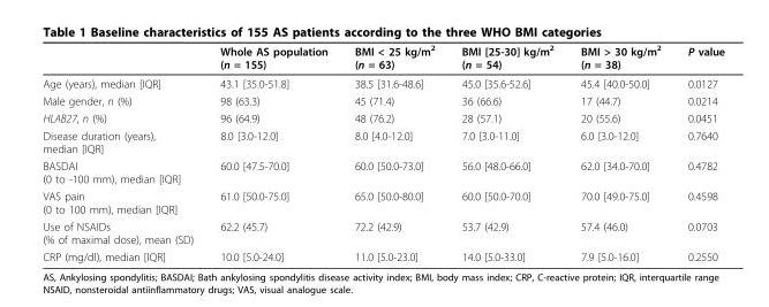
<table><thead><tr><td></td><td>Whole AS population (n = 155)</td><td>BMI &lt; 25 kg/m<sup>2</sup> (n = 63)</td><td>BMI [25-30] kg/m<sup>2</sup> (n = 54)</td><td>BMI &gt; 30 kg/m<sup>2</sup> (n = 38)</td><td>P value</td></tr></thead><tbody><tr><td>Age (years), median [IQR]</td><td>43.1 [35.0-51.8]</td><td>38.5 [31.6-48.6]</td><td>45.0 [35.6-52.6]</td><td>45.4 [40.0-50.0]</td><td>0.0127</td></tr><tr><td>Male gender, n (%)</td><td>98 (63.3)</td><td>45 (71.4)</td><td>36 (66.6)</td><td>17 (44.7)</td><td>0.0214</td></tr><tr><td>HLAB27, n (%)</td><td>96 (64.9)</td><td>48 (76.2)</td><td>28 (57.1)</td><td>20 (55.6)</td><td>0.0451</td></tr><tr><td>Disease duration (years), median [IQR]</td><td>8.0 [3.0-12.0]</td><td>8.0 [4.0-12.0]</td><td>7.0 [3.0-11.0]</td><td>6.0 [3.0-12.0]</td><td>0.7640</td></tr><tr><td>BASDAI (0 to -100 mm), median [IQR]</td><td>60.0 [47.5-70.0]</td><td>60.0 [50.0-73.0]</td><td>56.0 [48.0-66.0]</td><td>62.0 [34.0-70.0]</td><td>0.4782</td></tr><tr><td>VAS pain (0 to 100 mm), median [IQR]</td><td>61.0 [50.0-75.0]</td><td>65.0 [50.0-80.0]</td><td>60.0 [50.0-70.0]</td><td>70.0 [49.0-75.0]</td><td>0.4598</td></tr><tr><td>Use of NSAIDs (% of maximal dose), mean (SD)</td><td>62.2 (45.7)</td><td>72.2 (42.9)</td><td>53.7 (42.9)</td><td>57.4 (46.0)</td><td>0.0703</td></tr><tr><td>CRP (mg/dl), median [IQR]</td><td>10.0 [5.0-24.0]</td><td>11.0 [5.0-23.0]</td><td>14.0 [5.0-33.0]</td><td>7.9 [5.0-16.0]</td><td>0.2550</td></tr></tbody></table>